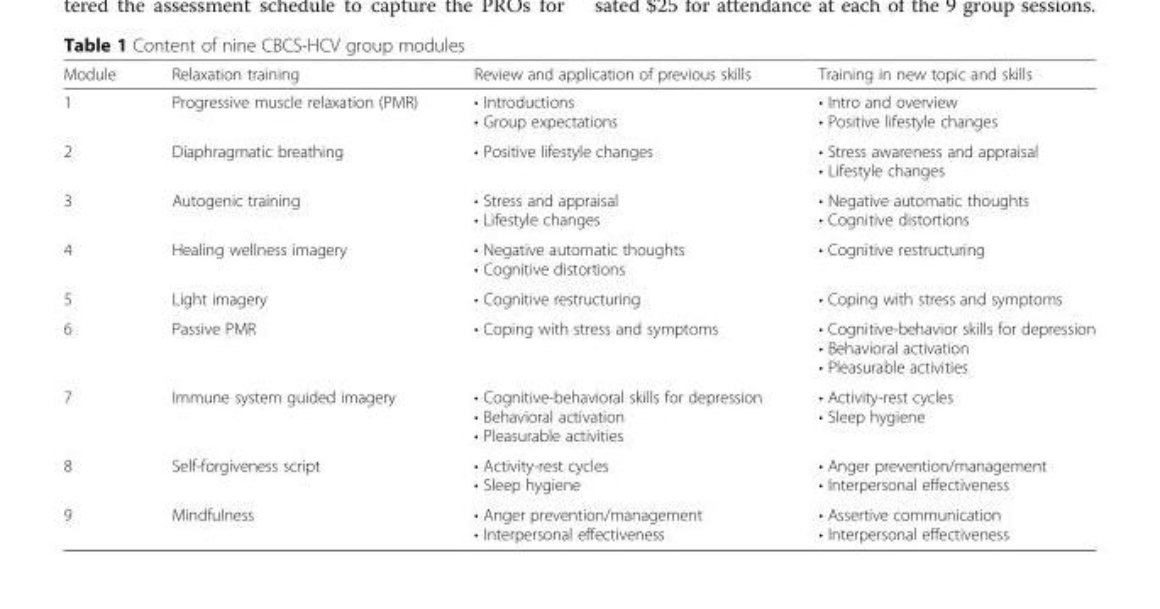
<table><thead><tr><td>Module</td><td>Relaxation training</td><td>Review and application of previous skills</td><td>Training in new topic and skills</td></tr></thead><tbody><tr><td>1</td><td>Progressive muscle relaxation (PMR)</td><td>• Introductions • Group expectations</td><td>• Intro and overview • Positive lifestyle changes</td></tr><tr><td>2</td><td>Diaphragmatic breathing</td><td>• Positive lifestyle changes</td><td>• Stress awareness and appraisal • Lifestyle changes</td></tr><tr><td>3</td><td>Autogenic training</td><td>• Stress and appraisal • Lifestyle changes</td><td>• Negative automatic thoughts • Cognitive distortions</td></tr><tr><td>4</td><td>Healing wellness imagery</td><td>• Negative automatic thoughts • Cognitive distortions</td><td>• Cognitive restructuring</td></tr><tr><td>5</td><td>Light imagery</td><td>• Cognitive restructuring</td><td>• Coping with stress and symptoms</td></tr><tr><td>6</td><td>Passive PMR</td><td>• Coping with stress and symptoms</td><td>• Cognitive-behavior skills for depression • Behavioral activation • Pleasurable activities</td></tr><tr><td>7</td><td>Immune system guided imagery</td><td>• Cognitive-behavioral skills for depression • Behavioral activation • Pleasurable activities</td><td>• Activity-rest cycles • Sleep hygiene</td></tr><tr><td>8</td><td>Self-forgiveness script</td><td>• Activity-rest cycles • Sleep hygiene</td><td>• Anger prevention/management • Interpersonal effectiveness</td></tr><tr><td>9</td><td>Mindfulness</td><td>• Anger prevention/management • Interpersonal effectiveness</td><td>• Assertive communication • Interpersonal effectiveness</td></tr></tbody></table>